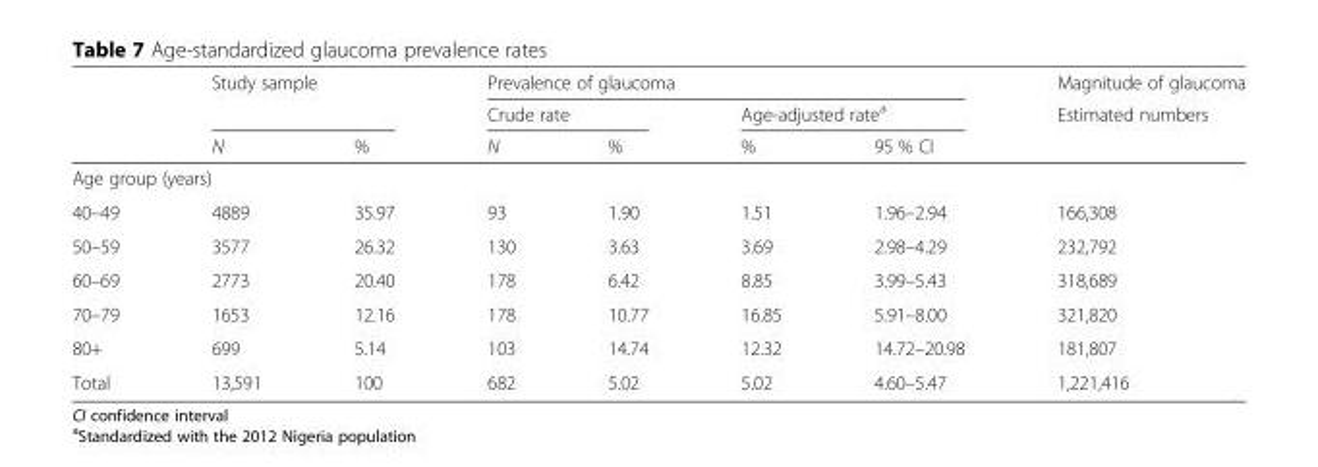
<table><thead><tr><td rowspan="3"></td><td colspan="2">Study sample</td><td colspan="4">Prevalence of glaucoma</td><td rowspan="3">Magnitude of glaucoma Estimated numbers</td></tr><tr><td rowspan="2">N</td><td rowspan="2">%</td><td colspan="2">Crude rate</td><td colspan="2">Age-adjusted rate<sup>a</sup></td></tr><tr><td>N</td><td>%</td><td>%</td><td>95 % CI</td></tr></thead><tbody><tr><td colspan="8">Age group (years)</td></tr><tr><td>40–49</td><td>4889</td><td>35.97</td><td>93</td><td>1.90</td><td>1.51</td><td>1.96–2.94</td><td>166,308</td></tr><tr><td>50–59</td><td>3577</td><td>26.32</td><td>130</td><td>3.63</td><td>3.69</td><td>2.98–4.29</td><td>232,792</td></tr><tr><td>60–69</td><td>2773</td><td>20.40</td><td>178</td><td>6.42</td><td>8.85</td><td>3.99–5.43</td><td>318,689</td></tr><tr><td>70–79</td><td>1653</td><td>12.16</td><td>178</td><td>10.77</td><td>16.85</td><td>5.91–8.00</td><td>321,820</td></tr><tr><td>80+</td><td>699</td><td>5.14</td><td>103</td><td>14.74</td><td>12.32</td><td>14.72–20.98</td><td>181,807</td></tr><tr><td>Total</td><td>13,591</td><td>100</td><td>682</td><td>5.02</td><td>5.02</td><td>4.60–5.47</td><td>1,221,416</td></tr></tbody></table>